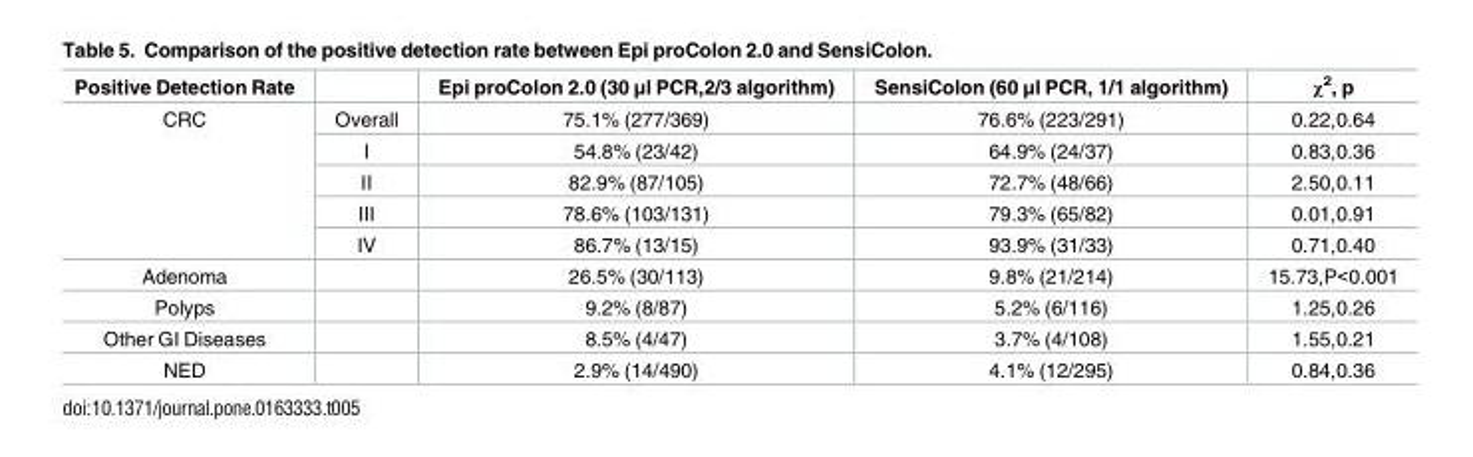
<table><thead><tr><td>Positive Detection Rate</td><td></td><td>Epi proColon 2.0 (30 μl PCR,2/3 algorithm)</td><td>SensiColon (60 μl PCR, 1/1 algorithm)</td><td>χ<sup>2</sup>, p</td></tr></thead><tbody><tr><td rowspan="5">CRC</td><td>Overall</td><td>75.1% (277/369)</td><td>76.6% (223/291)</td><td>0.22,0.64</td></tr><tr><td>I</td><td>54.8% (23/42)</td><td>64.9% (24/37)</td><td>0.83,0.36</td></tr><tr><td>II</td><td>82.9% (87/105)</td><td>72.7% (48/66)</td><td>2.50,0.11</td></tr><tr><td>III</td><td>78.6% (103/131)</td><td>79.3% (65/82)</td><td>0.01,0.91</td></tr><tr><td>IV</td><td>86.7% (13/15)</td><td>93.9% (31/33)</td><td>0.71,0.40</td></tr><tr><td>Adenoma</td><td></td><td>26.5% (30/113)</td><td>9.8% (21/214)</td><td>15.73,P&lt;0.001</td></tr><tr><td>Polyps</td><td></td><td>9.2% (8/87)</td><td>5.2% (6/116)</td><td>1.25,0.26</td></tr><tr><td>Other GI Diseases</td><td></td><td>8.5% (4/47)</td><td>3.7% (4/108)</td><td>1.55,0.21</td></tr><tr><td>NED</td><td></td><td>2.9% (14/490)</td><td>4.1% (12/295)</td><td>0.84,0.36</td></tr></tbody></table>